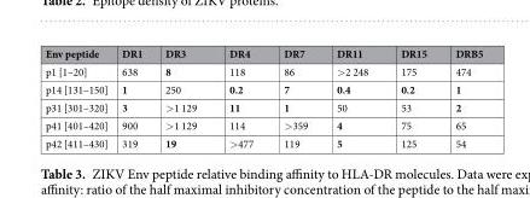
<table><thead><tr><td>Env peptide</td><td>DR1</td><td>DR3</td><td>DR4</td><td>DR7</td><td>DR11</td><td>DR15</td><td>DRB5</td></tr></thead><tbody><tr><td>p1 [1–20]</td><td>638</td><td>8</td><td>118</td><td>86</td><td>&gt;2 248</td><td>175</td><td>474</td></tr><tr><td>p14 [131–150]</td><td>1</td><td>250</td><td>0.2</td><td>7</td><td>0.4</td><td>0.2</td><td>1</td></tr><tr><td>p31 [301–320]</td><td>3</td><td>&gt;1 129</td><td>11</td><td>1</td><td>50</td><td>53</td><td>2</td></tr><tr><td>p41 [401–420]</td><td>900</td><td>&gt;1 129</td><td>114</td><td>&gt;359</td><td>4</td><td>75</td><td>65</td></tr><tr><td>p42 [411–430]</td><td>319</td><td>19</td><td>&gt;477</td><td>119</td><td>5</td><td>125</td><td>54</td></tr></tbody></table>